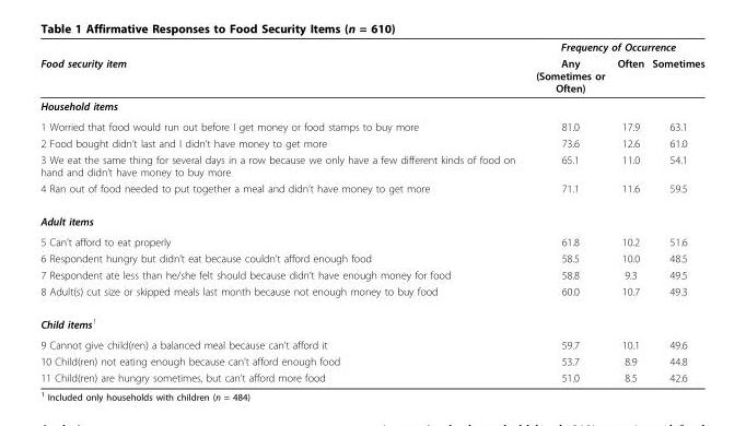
<table><thead><tr><td rowspan="2">Food security item</td><td colspan="3">Frequency of Occurrence</td></tr><tr><td>Any (Sometimes or Often)</td><td>Often</td><td>Sometimes</td></tr></thead><tbody><tr><td colspan="4">Household items</td></tr><tr><td>1 Worried that food would run out before I get money or food stamps to buy more</td><td>81.0</td><td>17.9</td><td>63.1</td></tr><tr><td>2 Food bought didn’t last and I didn’t have money to get more</td><td>73.6</td><td>12.6</td><td>61.0</td></tr><tr><td>3 We eat the same thing for several days in a row because we only have a few different kinds of food on hand and didn’t have money to buy more</td><td>65.1</td><td>11.0</td><td>54.1</td></tr><tr><td>4 Ran out of food needed to put together a meal and didn’t have money to get more</td><td>71.1</td><td>11.6</td><td>59.5</td></tr><tr><td colspan="4">Adult items</td></tr><tr><td>5 Can’t afford to eat properly</td><td>61.8</td><td>10.2</td><td>51.6</td></tr><tr><td>6 Respondent hungry but didn’t eat because couldn’t afford enough food</td><td>58.5</td><td>10.0</td><td>48.5</td></tr><tr><td>7 Respondent ate less than he/she felt should because didn’t have enough money for food</td><td>58.8</td><td>9.3</td><td>49.5</td></tr><tr><td>8 Adult(s) cut size or skipped meals last month because not enough money to buy food</td><td>60.0</td><td>10.7</td><td>49.3</td></tr><tr><td colspan="4">Child items<sup>1</sup></td></tr><tr><td>9 Cannot give child(ren) a balanced meal because can’t afford it</td><td>59.7</td><td>10.1</td><td>49.6</td></tr><tr><td>10 Child(ren) not eating enough because can’t afford enough food</td><td>53.7</td><td>8.9</td><td>44.8</td></tr><tr><td>11 Child(ren) are hungry sometimes, but can’t afford more food</td><td>51.0</td><td>8.5</td><td>42.6</td></tr></tbody></table>